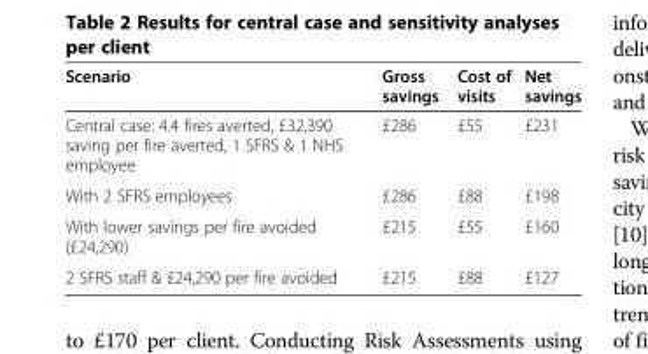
<table><thead><tr><td>Scenario</td><td>Gross savings</td><td>Cost of visits</td><td>Net savings</td></tr></thead><tbody><tr><td>Central case: 4.4 fires averted, £32,390 saving per fire averted, 1 SFRS &amp; 1 NHS employee</td><td>£286</td><td>£55</td><td>£231</td></tr><tr><td>With 2 SFRS employees</td><td>£286</td><td>£88</td><td>£198</td></tr><tr><td>With lower savings per fire avoided (£24,290)</td><td>£215</td><td>£55</td><td>£160</td></tr><tr><td>2 SFRS staff &amp; £24,290 per fire avoided</td><td>£215</td><td>£88</td><td>£127</td></tr></tbody></table>